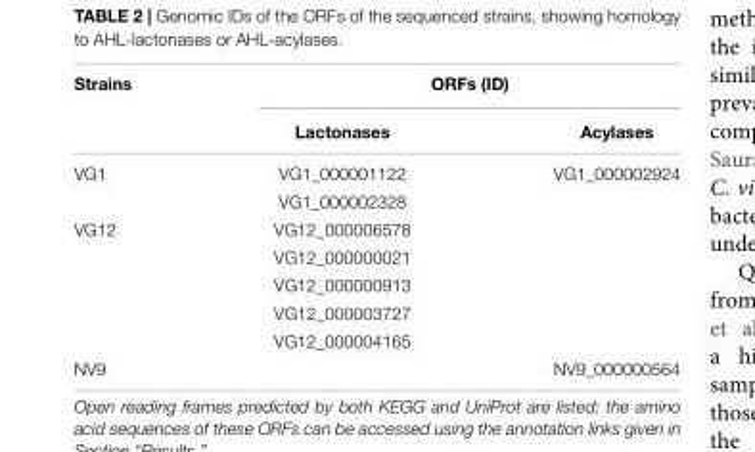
<table><thead><tr><td rowspan="2">Strains</td><td colspan="2">ORFs (ID)</td></tr><tr><td>Lactonases</td><td>Acylases</td></tr></thead><tbody><tr><td rowspan="2">VG1</td><td>VG1_000001122</td><td>VG1_000002924</td></tr><tr><td>VG1_000002328</td><td></td></tr><tr><td rowspan="5">VG12</td><td>VG12_000006578</td><td></td></tr><tr><td>VG12_000000021</td><td></td></tr><tr><td>VG12_000000913</td><td></td></tr><tr><td>VG12_000003727</td><td></td></tr><tr><td>VG12_000004165</td><td></td></tr><tr><td>NV9</td><td></td><td>NV9_000000564</td></tr></tbody></table>